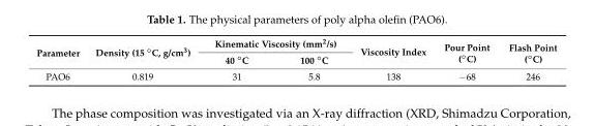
<table><thead><tr><td rowspan="2">Parameter</td><td rowspan="2">Density (15 ◦C, g/cm3)</td><td colspan="2">Kinematic Viscosity (mm<sup>2</sup>/s)</td><td rowspan="2">Viscosity Index</td><td rowspan="2">Pour Point (◦C)</td><td rowspan="2">Flash Point (◦C)</td></tr><tr><td>40 ◦C</td><td>100 ◦C</td></tr></thead><tbody><tr><td>PAO6</td><td>0.819</td><td>31</td><td>5.8</td><td>138</td><td>−68</td><td>246</td></tr></tbody></table>